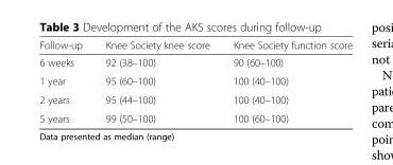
<table><thead><tr><td>Follow-up</td><td>Knee Society knee score</td><td>Knee Society function score</td></tr></thead><tbody><tr><td>6 weeks</td><td>92 (38–100)</td><td>90 (60–100)</td></tr><tr><td>1 year</td><td>95 (60–100)</td><td>100 (40–100)</td></tr><tr><td>2 years</td><td>95 (44–100)</td><td>100 (40–100)</td></tr><tr><td>5 years</td><td>99 (50–100)</td><td>100 (60–100)</td></tr></tbody></table>